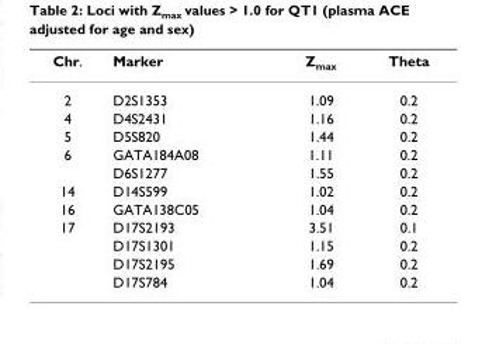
<table><thead><tr><td>Chr.</td><td>Marker</td><td>Z<sub>max</sub></td><td>Theta</td></tr></thead><tbody><tr><td>2</td><td>D2S1353</td><td>1.09</td><td>0.2</td></tr><tr><td>4</td><td>D4S2431</td><td>1.16</td><td>0.2</td></tr><tr><td>5</td><td>D5S820</td><td>1.44</td><td>0.2</td></tr><tr><td rowspan="2">6</td><td>GATA184A08</td><td>1.11</td><td>0.2</td></tr><tr><td>D6S1277</td><td>1.55</td><td>0.2</td></tr><tr><td>14</td><td>D14S599</td><td>1.02</td><td>0.2</td></tr><tr><td>16</td><td>GATA138C05</td><td>1.04</td><td>0.2</td></tr><tr><td rowspan="4">17</td><td>D17S2193</td><td>3.51</td><td>0.1</td></tr><tr><td>D17S1301</td><td>1.15</td><td>0.2</td></tr><tr><td>D17S2195</td><td>1.69</td><td>0.2</td></tr><tr><td>D17S784</td><td>1.04</td><td>0.2</td></tr></tbody></table>